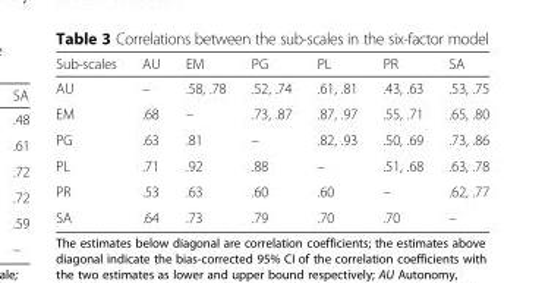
<table><thead><tr><td>Sub-scales</td><td>AU</td><td>EM</td><td>PG</td><td>PL</td><td>PR</td><td>SA</td></tr></thead><tbody><tr><td>AU</td><td>–</td><td>.58, .78</td><td>.52, .74</td><td>.61, .81</td><td>.43, .63</td><td>.53, .75</td></tr><tr><td>EM</td><td>.68</td><td>–</td><td>.73, .87</td><td>.87, .97</td><td>.55, .71</td><td>.65, .80</td></tr><tr><td>PG</td><td>.63</td><td>.81</td><td>–</td><td>.82, .93</td><td>.50, .69</td><td>.73, .86</td></tr><tr><td>PL</td><td>.71</td><td>.92</td><td>.88</td><td>–</td><td>.51, .68</td><td>.63, .78</td></tr><tr><td>PR</td><td>.53</td><td>.63</td><td>.60</td><td>.60</td><td>–</td><td>.62, .77</td></tr><tr><td>SA</td><td>.64</td><td>.73</td><td>.79</td><td>.70</td><td>.70</td><td>–</td></tr></tbody></table>